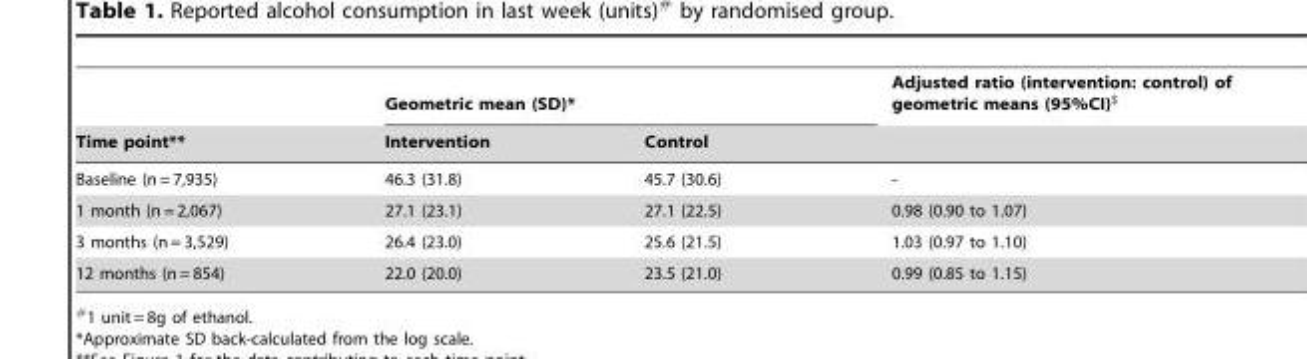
<table><thead><tr><td rowspan="2">Time point**</td><td colspan="2">Geometric mean (SD)*</td><td rowspan="2">Adjusted ratio (intervention: control) of geometric means (95%CI)$</td></tr><tr><td>Intervention</td><td>Control</td></tr></thead><tbody><tr><td>Baseline (n = 7,935)</td><td>46.3 (31.8)</td><td>45.7 (30.6)</td><td>-</td></tr><tr><td>1 month (n = 2,067)</td><td>27.1 (23.1)</td><td>27.1 (22.5)</td><td>0.98 (0.90 to 1.07)</td></tr><tr><td>3 months (n = 3,529)</td><td>26.4 (23.0)</td><td>25.6 (21.5)</td><td>1.03 (0.97 to 1.10)</td></tr><tr><td>12 months (n = 854)</td><td>22.0 (20.0)</td><td>23.5 (21.0)</td><td>0.99 (0.85 to 1.15)</td></tr></tbody></table>